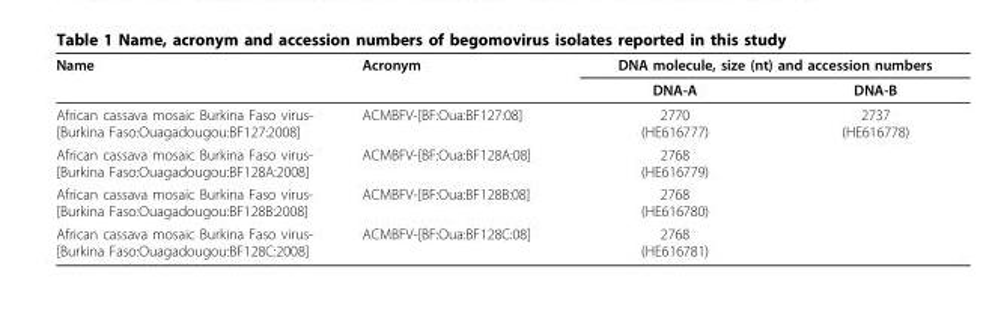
<table><thead><tr><td rowspan="2">Name</td><td rowspan="2">Acronym</td><td colspan="2">DNA molecule, size (nt) and accession numbers</td></tr><tr><td>DNA-A</td><td>DNA-B</td></tr></thead><tbody><tr><td>African cassava mosaic Burkina Faso virus- [Burkina Faso:Ouagadougou:BF127:2008]</td><td>ACMBFV-[BF:Oua:BF127:08]</td><td>2770 (HE616777)</td><td>2737 (HE616778)</td></tr><tr><td>African cassava mosaic Burkina Faso virus- [Burkina Faso:Ouagadougou:BF128A:2008]</td><td>ACMBFV-[BF:Oua:BF128A:08]</td><td>2768 (HE616779)</td><td></td></tr><tr><td>African cassava mosaic Burkina Faso virus- [Burkina Faso:Ouagadougou:BF128B:2008]</td><td>ACMBFV-[BF:Oua:BF128B:08]</td><td>2768 (HE616780)</td><td></td></tr><tr><td>African cassava mosaic Burkina Faso virus- [Burkina Faso:Ouagadougou:BF128C:2008]</td><td>ACMBFV-[BF:Oua:BF128C:08]</td><td>2768 (HE616781)</td><td></td></tr></tbody></table>